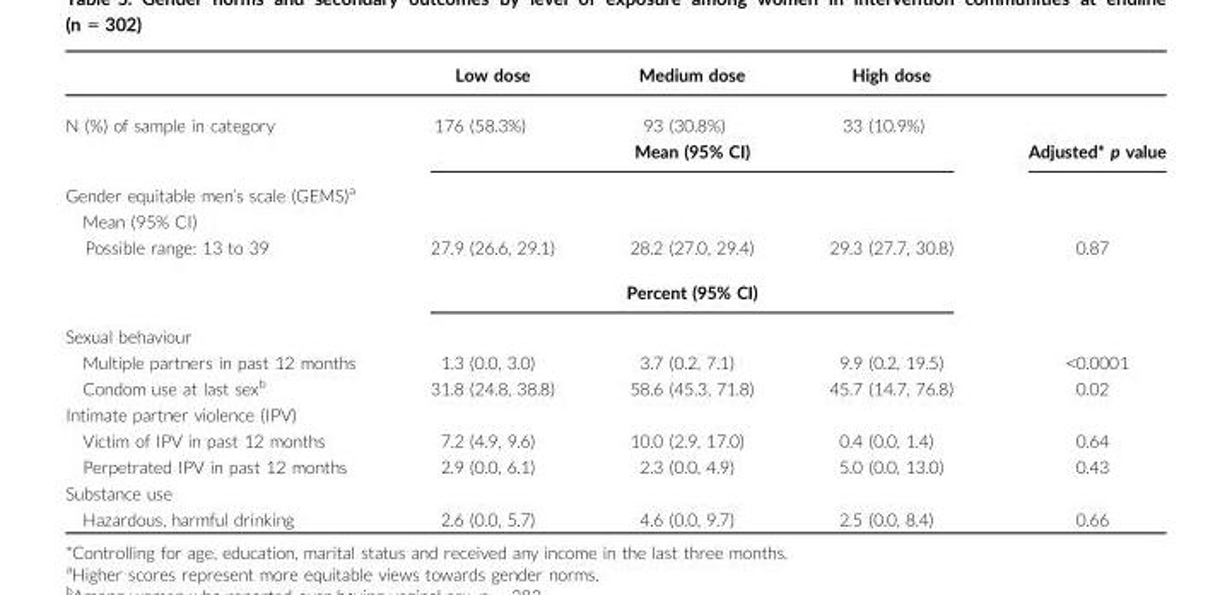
<table><thead><tr><td></td><td>Low dose</td><td>Medium dose</td><td>High dose</td><td></td></tr></thead><tbody><tr><td rowspan="2">N (%) of sample in category</td><td>176 (58.3%)</td><td>93 (30.8%)</td><td>33 (10.9%)</td><td></td></tr><tr><td colspan="3">Mean (95% CI)</td><td>Adjusted* p value</td></tr><tr><td colspan="5">Gender equitable men’s scale (GEMS)a</td></tr><tr><td rowspan="2">Mean (95% CI) Possible range: 13 to 39</td><td>27.9 (26.6, 29.1)</td><td>28.2 (27.0, 29.4)</td><td>29.3 (27.7, 30.8)</td><td>0.87</td></tr><tr><td colspan="3">Percent (95% CI)</td><td></td></tr><tr><td colspan="5">Sexual behaviour</td></tr><tr><td>Multiple partners in past 12 months</td><td>1.3 (0.0, 3.0)</td><td>3.7 (0.2, 7.1)</td><td>9.9 (0.2, 19.5)</td><td>&lt;0.0001</td></tr><tr><td>Condom use at last sexb</td><td>31.8 (24.8, 38.8)</td><td>58.6 (45.3, 71.8)</td><td>45.7 (14.7, 76.8)</td><td>0.02</td></tr><tr><td colspan="5">Intimate partner violence (IPV)</td></tr><tr><td>Victim of IPV in past 12 months</td><td>7.2 (4.9, 9.6)</td><td>10.0 (2.9, 17.0)</td><td>0.4 (0.0, 1.4)</td><td>0.64</td></tr><tr><td>Perpetrated IPV in past 12 months</td><td>2.9 (0.0, 6.1)</td><td>2.3 (0.0, 4.9)</td><td>5.0 (0.0, 13.0)</td><td>0.43</td></tr><tr><td colspan="5">Substance use</td></tr><tr><td>Hazardous, harmful drinking</td><td>2.6 (0.0, 5.7)</td><td>4.6 (0.0, 9.7)</td><td>2.5 (0.0, 8.4)</td><td>0.66</td></tr></tbody></table>